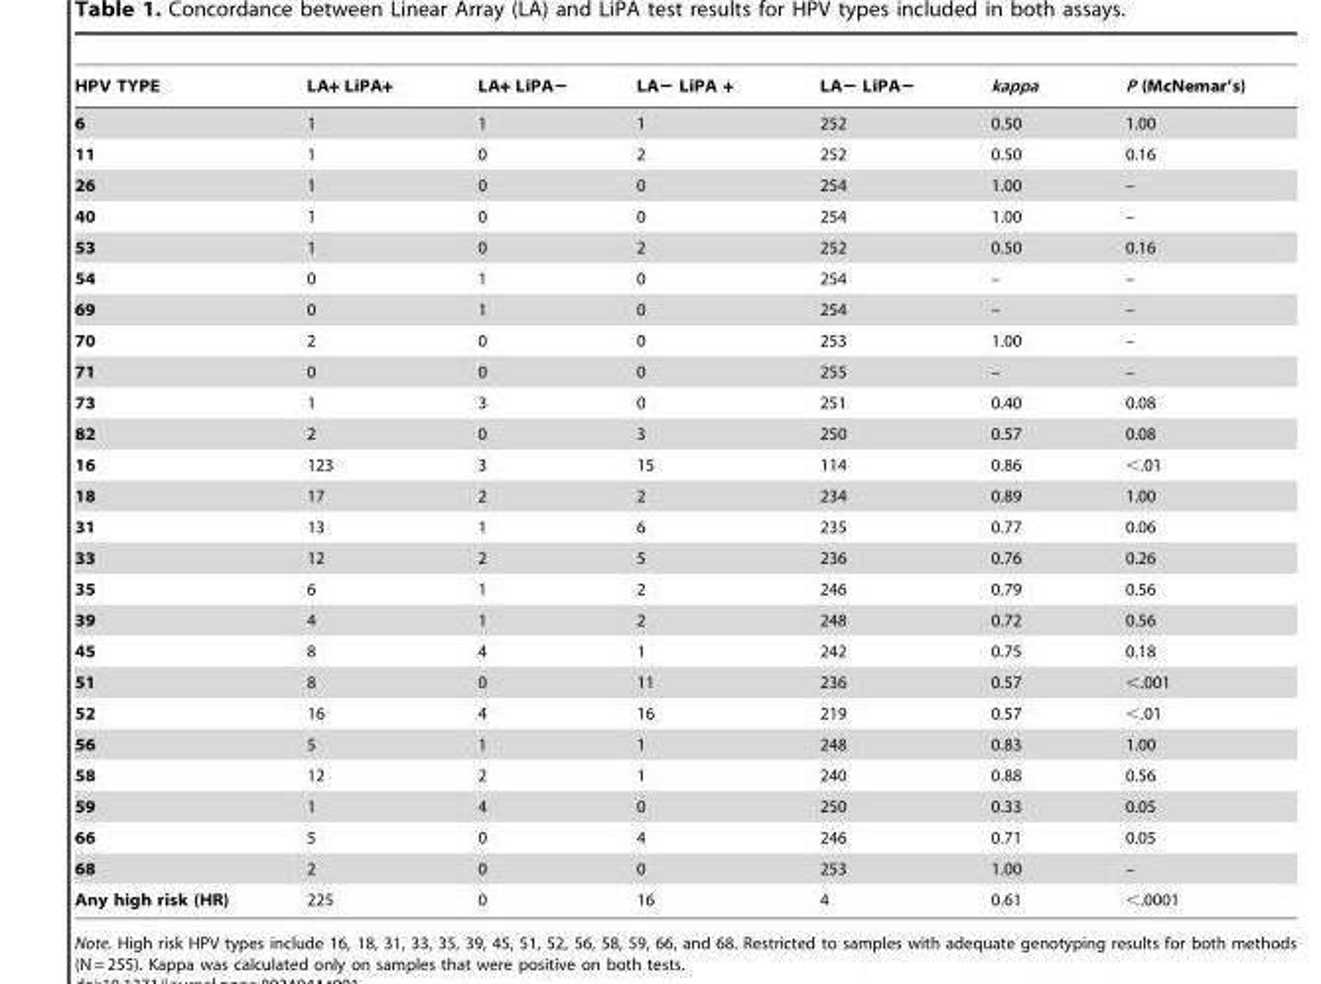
<table><thead><tr><td>HPV TYPE</td><td>LA+ LiPA+</td><td>LA+ LiPA−</td><td>LA− LiPA +</td><td>LA− LiPA−</td><td>kappa</td><td>P (McNemar’s)</td></tr></thead><tbody><tr><td>6</td><td>1</td><td>1</td><td>1</td><td>252</td><td>0.50</td><td>1.00</td></tr><tr><td>11</td><td>1</td><td>0</td><td>2</td><td>252</td><td>0.50</td><td>0.16</td></tr><tr><td>26</td><td>1</td><td>0</td><td>0</td><td>254</td><td>1.00</td><td>–</td></tr><tr><td>40</td><td>1</td><td>0</td><td>0</td><td>254</td><td>1.00</td><td>–</td></tr><tr><td>53</td><td>1</td><td>0</td><td>2</td><td>252</td><td>0.50</td><td>0.16</td></tr><tr><td>54</td><td>0</td><td>1</td><td>0</td><td>254</td><td>–</td><td>–</td></tr><tr><td>69</td><td>0</td><td>1</td><td>0</td><td>254</td><td>–</td><td>–</td></tr><tr><td>70</td><td>2</td><td>0</td><td>0</td><td>253</td><td>1.00</td><td>–</td></tr><tr><td>71</td><td>0</td><td>0</td><td>0</td><td>255</td><td>–</td><td>–</td></tr><tr><td>73</td><td>1</td><td>3</td><td>0</td><td>251</td><td>0.40</td><td>0.08</td></tr><tr><td>82</td><td>2</td><td>0</td><td>3</td><td>250</td><td>0.57</td><td>0.08</td></tr><tr><td>16</td><td>123</td><td>3</td><td>15</td><td>114</td><td>0.86</td><td>&lt;.01</td></tr><tr><td>18</td><td>17</td><td>2</td><td>2</td><td>234</td><td>0.89</td><td>1.00</td></tr><tr><td>31</td><td>13</td><td>1</td><td>6</td><td>235</td><td>0.77</td><td>0.06</td></tr><tr><td>33</td><td>12</td><td>2</td><td>5</td><td>236</td><td>0.76</td><td>0.26</td></tr><tr><td>35</td><td>6</td><td>1</td><td>2</td><td>246</td><td>0.79</td><td>0.56</td></tr><tr><td>39</td><td>4</td><td>1</td><td>2</td><td>248</td><td>0.72</td><td>0.56</td></tr><tr><td>45</td><td>8</td><td>4</td><td>1</td><td>242</td><td>0.75</td><td>0.18</td></tr><tr><td>51</td><td>8</td><td>0</td><td>11</td><td>236</td><td>0.57</td><td>&lt;.001</td></tr><tr><td>52</td><td>16</td><td>4</td><td>16</td><td>219</td><td>0.57</td><td>&lt;.01</td></tr><tr><td>56</td><td>5</td><td>1</td><td>1</td><td>248</td><td>0.83</td><td>1.00</td></tr><tr><td>58</td><td>12</td><td>2</td><td>1</td><td>240</td><td>0.88</td><td>0.56</td></tr><tr><td>59</td><td>1</td><td>4</td><td>0</td><td>250</td><td>0.33</td><td>0.05</td></tr><tr><td>66</td><td>5</td><td>0</td><td>4</td><td>246</td><td>0.71</td><td>0.05</td></tr><tr><td>68</td><td>2</td><td>0</td><td>0</td><td>253</td><td>1.00</td><td>–</td></tr><tr><td>Any high risk (HR)</td><td>225</td><td>0</td><td>16</td><td>4</td><td>0.61</td><td>&lt;.0001</td></tr></tbody></table>